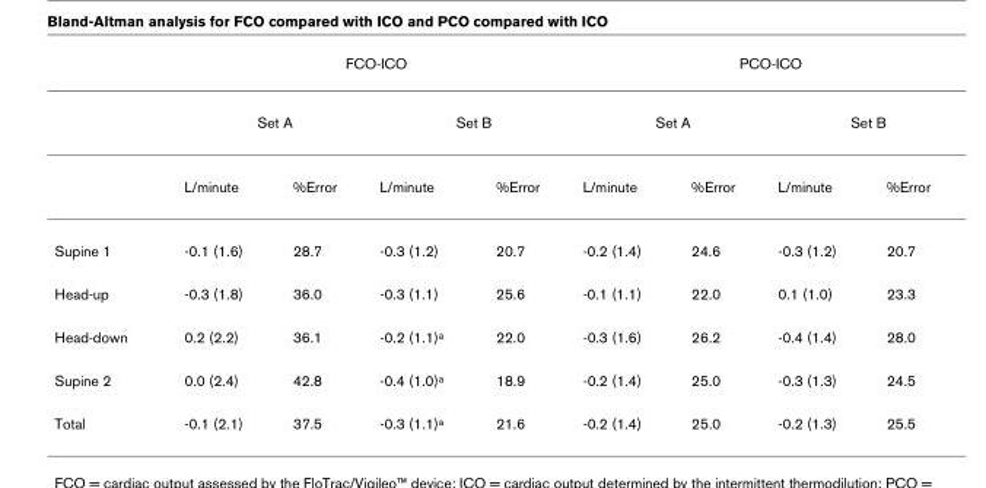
<table><thead><tr><td rowspan="3"></td><td colspan="4">FCO-ICO</td><td colspan="4">PCO-ICO</td></tr><tr><td colspan="2">Set A</td><td colspan="2">Set B</td><td colspan="2">Set A</td><td colspan="2">Set B</td></tr><tr><td>L/minute</td><td>%Error</td><td>L/minute</td><td>%Error</td><td>L/minute</td><td>%Error</td><td>L/minute</td><td>%Error</td></tr></thead><tbody><tr><td>Supine 1</td><td>-0.1 (1.6)</td><td>28.7</td><td>-0.3 (1.2)</td><td>20.7</td><td>-0.2 (1.4)</td><td>24.6</td><td>-0.3 (1.2)</td><td>20.7</td></tr><tr><td>Head-up</td><td>-0.3 (1.8)</td><td>36.0</td><td>-0.3 (1.1)</td><td>25.6</td><td>-0.1 (1.1)</td><td>22.0</td><td>0.1 (1.0)</td><td>23.3</td></tr><tr><td>Head-down</td><td>0.2 (2.2)</td><td>36.1</td><td>-0.2 (1.1)<sup>a</sup></td><td>22.0</td><td>-0.3 (1.6)</td><td>26.2</td><td>-0.4 (1.4)</td><td>28.0</td></tr><tr><td>Supine 2</td><td>0.0 (2.4)</td><td>42.8</td><td>-0.4 (1.0)<sup>a</sup></td><td>18.9</td><td>-0.2 (1.4)</td><td>25.0</td><td>-0.3 (1.3)</td><td>24.5</td></tr><tr><td>Total</td><td>-0.1 (2.1)</td><td>37.5</td><td>-0.3 (1.1)<sup>a</sup></td><td>21.6</td><td>-0.2 (1.4)</td><td>25.0</td><td>-0.2 (1.3)</td><td>25.5</td></tr></tbody></table>